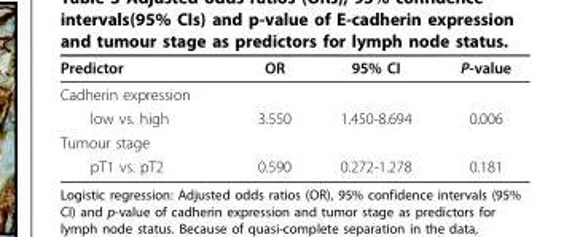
<table><thead><tr><td>Predictor</td><td>OR</td><td>95% CI</td><td>P-value</td></tr></thead><tbody><tr><td colspan="4">Cadherin expression</td></tr><tr><td>low vs. high</td><td>3.550</td><td>1.450-8.694</td><td>0.006</td></tr><tr><td colspan="4">Tumour stage</td></tr><tr><td>pT1 vs. pT2</td><td>0.590</td><td>0.272-1.278</td><td>0.181</td></tr></tbody></table>